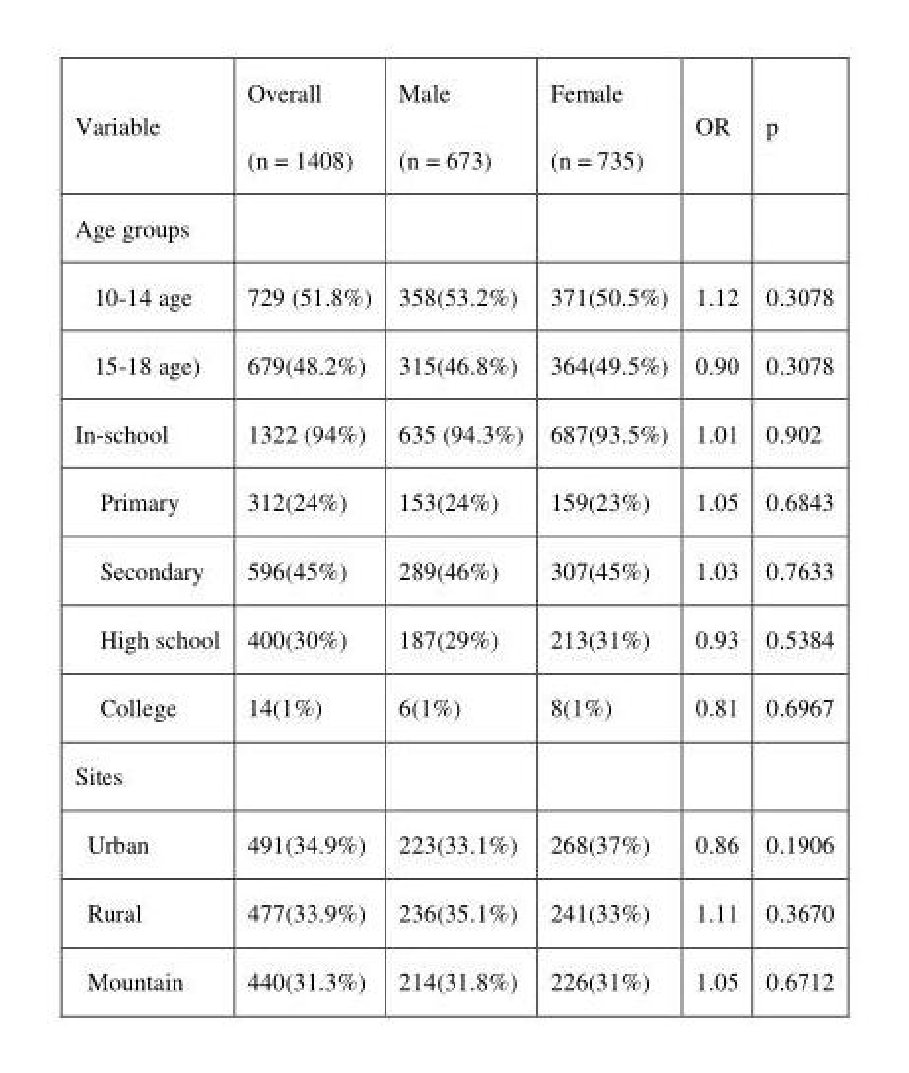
<table><thead><tr><td>Variable</td><td>Overall (n = 1408)</td><td>Male (n = 673)</td><td>Female (n = 735)</td><td>OR</td><td>p</td></tr></thead><tbody><tr><td colspan="6">Age groups</td></tr><tr><td>10-14 age</td><td>729 (51.8%)</td><td>358(53.2%)</td><td>371(50.5%)</td><td>1.12</td><td>0.3078</td></tr><tr><td>15-18 age)</td><td>679(48.2%)</td><td>315(46.8%)</td><td>364(49.5%)</td><td>0.90</td><td>0.3078</td></tr><tr><td>In-school</td><td>1322 (94%)</td><td>635 (94.3%)</td><td>687(93.5%)</td><td>1.01</td><td>0.902</td></tr><tr><td>Primary</td><td>312(24%)</td><td>153(24%)</td><td>159(23%)</td><td>1.05</td><td>0.6843</td></tr><tr><td>Secondary</td><td>596(45%)</td><td>289(46%)</td><td>307(45%)</td><td>1.03</td><td>0.7633</td></tr><tr><td>High school</td><td>400(30%)</td><td>187(29%)</td><td>213(31%)</td><td>0.93</td><td>0.5384</td></tr><tr><td>College</td><td>14(1%)</td><td>6(1%)</td><td>8(1%)</td><td>0.81</td><td>0.6967</td></tr><tr><td colspan="6">Sites</td></tr><tr><td>Urban</td><td>491(34.9%)</td><td>223(33.1%)</td><td>268(37%)</td><td>0.86</td><td>0.1906</td></tr><tr><td>Rural</td><td>477(33.9%)</td><td>236(35.1%)</td><td>241(33%)</td><td>1.11</td><td>0.3670</td></tr><tr><td>Mountain</td><td>440(31.3%)</td><td>214(31.8%)</td><td>226(31%)</td><td>1.05</td><td>0.6712</td></tr></tbody></table>